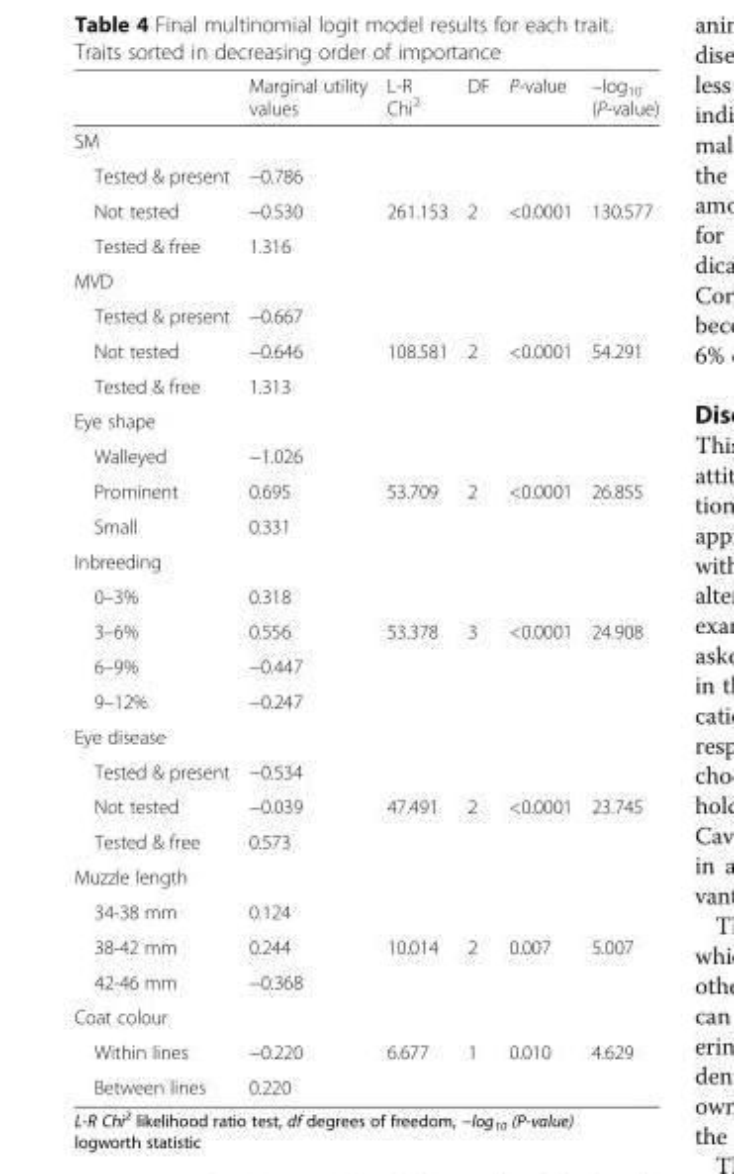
<table><thead><tr><td></td><td>Marginal utility values</td><td>L-R Chi<sup>2</sup></td><td>DF</td><td>P-value</td><td>–log<sub>10</sub> (P-value)</td></tr></thead><tbody><tr><td colspan="6">SM</td></tr><tr><td>Tested &amp; present</td><td>−0.786</td><td></td><td></td><td></td><td></td></tr><tr><td>Not tested</td><td>−0.530</td><td>261.153</td><td>2</td><td>&lt;0.0001</td><td>130.577</td></tr><tr><td>Tested &amp; free</td><td>1.316</td><td></td><td></td><td></td><td></td></tr><tr><td colspan="6">MVD</td></tr><tr><td>Tested &amp; present</td><td>−0.667</td><td></td><td></td><td></td><td></td></tr><tr><td>Not tested</td><td>−0.646</td><td>108.581</td><td>2</td><td>&lt;0.0001</td><td>54.291</td></tr><tr><td>Tested &amp; free</td><td>1.313</td><td></td><td></td><td></td><td></td></tr><tr><td colspan="6">Eye shape</td></tr><tr><td>Walleyed</td><td>−1.026</td><td></td><td></td><td></td><td></td></tr><tr><td>Prominent</td><td>0.695</td><td>53.709</td><td>2</td><td>&lt;0.0001</td><td>26.855</td></tr><tr><td>Small</td><td>0.331</td><td></td><td></td><td></td><td></td></tr><tr><td colspan="6">Inbreeding</td></tr><tr><td>0–3%</td><td>0.318</td><td></td><td></td><td></td><td></td></tr><tr><td>3–6%</td><td>0.556</td><td>53.378</td><td>3</td><td>&lt;0.0001</td><td>24.908</td></tr><tr><td>6–9%</td><td>−0.447</td><td></td><td></td><td></td><td></td></tr><tr><td>9–12%</td><td>−0.247</td><td></td><td></td><td></td><td></td></tr><tr><td colspan="6">Eye disease</td></tr><tr><td>Tested &amp; present</td><td>−0.534</td><td></td><td></td><td></td><td></td></tr><tr><td>Not tested</td><td>−0.039</td><td>47.491</td><td>2</td><td>&lt;0.0001</td><td>23.745</td></tr><tr><td>Tested &amp; free</td><td>0.573</td><td></td><td></td><td></td><td></td></tr><tr><td colspan="6">Muzzle length</td></tr><tr><td>34-38 mm</td><td>0.124</td><td></td><td></td><td></td><td></td></tr><tr><td>38-42 mm</td><td>0.244</td><td>10.014</td><td>2</td><td>0.007</td><td>5.007</td></tr><tr><td>42-46 mm</td><td>−0.368</td><td></td><td></td><td></td><td></td></tr><tr><td colspan="6">Coat colour</td></tr><tr><td>Within lines</td><td>−0.220</td><td>6.677</td><td>1</td><td>0.010</td><td>4.629</td></tr><tr><td>Between lines</td><td>0.220</td><td></td><td></td><td></td><td></td></tr></tbody></table>